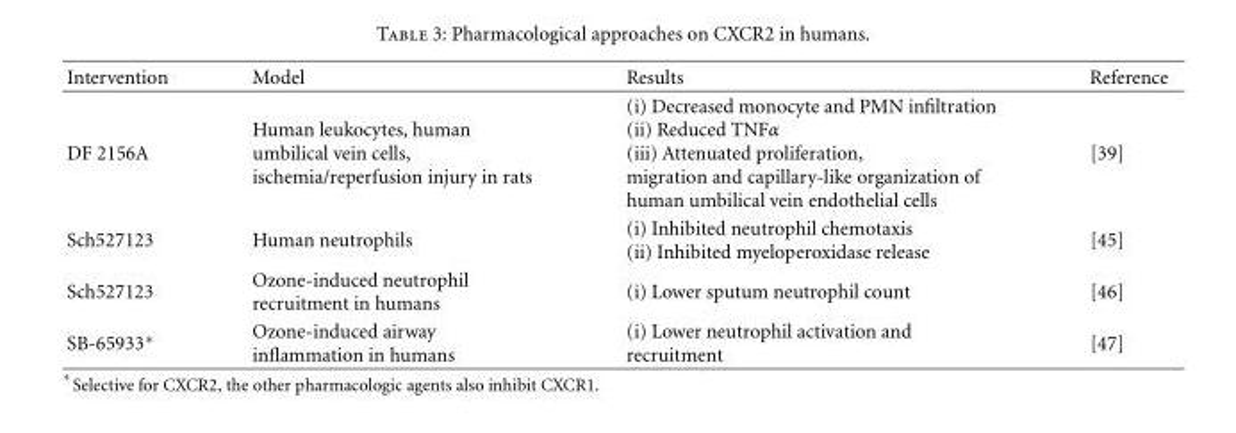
<table><thead><tr><td>Intervention</td><td>Model</td><td>Results</td><td>Reference</td></tr></thead><tbody><tr><td>DF 2156A</td><td>Human leukocytes, human umbilical vein cells, ischemia/reperfusion injury in rats</td><td>(i) Decreased monocyte and PMN infiltration (ii) Reduced TNFα (iii) Attenuated proliferation, migration and capillary-like organization of human umbilical vein endothelial cells</td><td>[39]</td></tr><tr><td>Sch527123</td><td>Human neutrophils</td><td>(i) Inhibited neutrophil chemotaxis (ii) Inhibited myeloperoxidase release</td><td>[45]</td></tr><tr><td>Sch527123</td><td>Ozone-induced neutrophil recruitment in humans</td><td>(i) Lower sputum neutrophil count</td><td>[46]</td></tr><tr><td>SB-65933∗</td><td>Ozone-induced airway inflammation in humans</td><td>(i) Lower neutrophil activation and recruitment</td><td>[47]</td></tr></tbody></table>